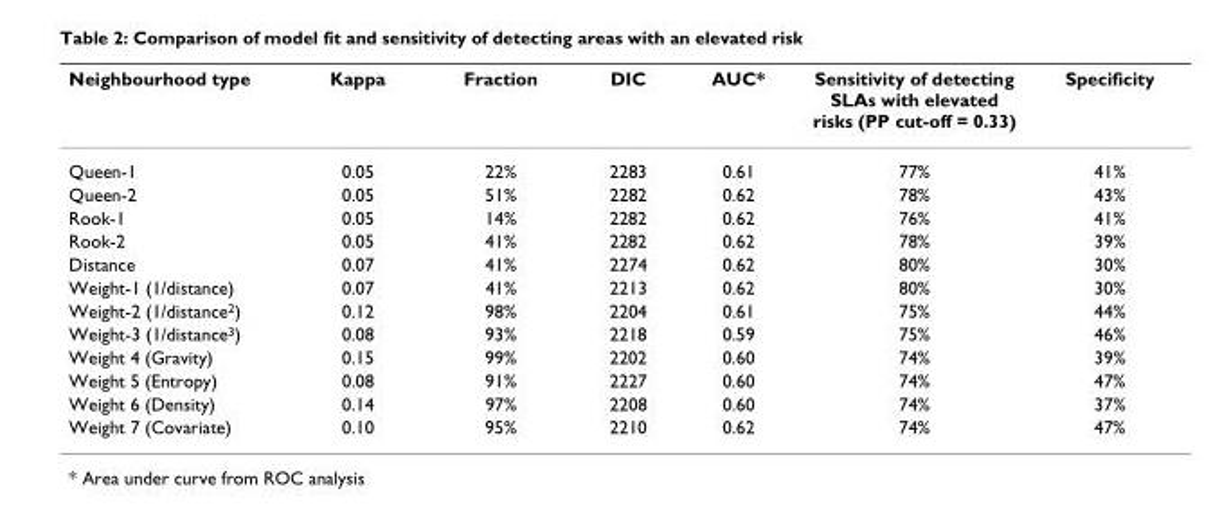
<table><thead><tr><td>Neighbourhood type</td><td>Kappa</td><td>Fraction</td><td>DIC</td><td>AUC*</td><td>Sensitivity of detecting SLAs with elevated risks (PP cut-off = 0.33)</td><td>Specificity</td></tr></thead><tbody><tr><td>Queen-1</td><td>0.05</td><td>22%</td><td>2283</td><td>0.61</td><td>77%</td><td>41%</td></tr><tr><td>Queen-2</td><td>0.05</td><td>51%</td><td>2282</td><td>0.62</td><td>78%</td><td>43%</td></tr><tr><td>Rook-1</td><td>0.05</td><td>14%</td><td>2282</td><td>0.62</td><td>76%</td><td>41%</td></tr><tr><td>Rook-2</td><td>0.05</td><td>41%</td><td>2282</td><td>0.62</td><td>78%</td><td>39%</td></tr><tr><td>Distance</td><td>0.07</td><td>41%</td><td>2274</td><td>0.62</td><td>80%</td><td>30%</td></tr><tr><td>Weight-1 (1/distance)</td><td>0.07</td><td>41%</td><td>2213</td><td>0.62</td><td>80%</td><td>30%</td></tr><tr><td>Weight-2 (1/distance<sup>2</sup>)</td><td>0.12</td><td>98%</td><td>2204</td><td>0.61</td><td>75%</td><td>44%</td></tr><tr><td>Weight-3 (1/distance<sup>3</sup>)</td><td>0.08</td><td>93%</td><td>2218</td><td>0.59</td><td>75%</td><td>46%</td></tr><tr><td>Weight 4 (Gravity)</td><td>0.15</td><td>99%</td><td>2202</td><td>0.60</td><td>74%</td><td>39%</td></tr><tr><td>Weight 5 (Entropy)</td><td>0.08</td><td>91%</td><td>2227</td><td>0.60</td><td>74%</td><td>47%</td></tr><tr><td>Weight 6 (Density)</td><td>0.14</td><td>97%</td><td>2208</td><td>0.60</td><td>74%</td><td>37%</td></tr><tr><td>Weight 7 (Covariate)</td><td>0.10</td><td>95%</td><td>2210</td><td>0.62</td><td>74%</td><td>47%</td></tr></tbody></table>